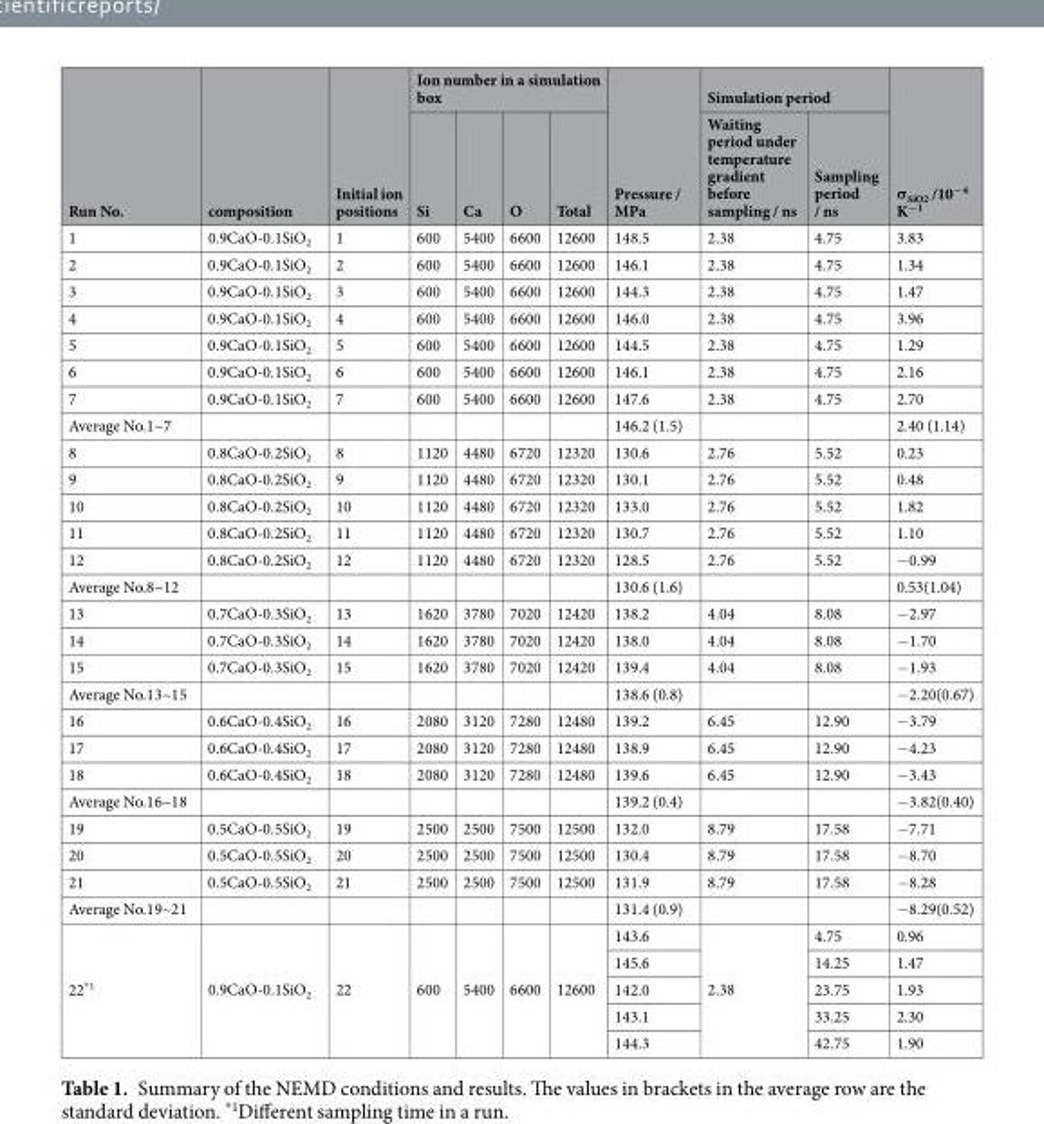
<table><thead><tr><td rowspan="2">Run No.</td><td rowspan="2">composition</td><td rowspan="2">Initial ion positions</td><td colspan="4">Ion number in a simulation box</td><td rowspan="2">Pressure / MPa</td><td colspan="2">Simulation period</td><td rowspan="2">σ<sub>SiO2</sub> /10<sup>−4</sup> K<sup>−1</sup></td></tr><tr><td>Si</td><td>Ca</td><td>O</td><td>Total</td><td>Waiting period under temperature gradient before sampling / ns</td><td>Sampling period / ns</td></tr></thead><tbody><tr><td>1</td><td>0.9CaO-0.1SiO<sub>2</sub></td><td>1</td><td>600</td><td>5400</td><td>6600</td><td>12600</td><td>148.5</td><td>2.38</td><td>4.75</td><td>3.83</td></tr><tr><td>2</td><td>0.9CaO-0.1SiO<sub>2</sub></td><td>2</td><td>600</td><td>5400</td><td>6600</td><td>12600</td><td>146.1</td><td>2.38</td><td>4.75</td><td>1.34</td></tr><tr><td>3</td><td>0.9CaO-0.1SiO<sub>2</sub></td><td>3</td><td>600</td><td>5400</td><td>6600</td><td>12600</td><td>144.3</td><td>2.38</td><td>4.75</td><td>1.47</td></tr><tr><td>4</td><td>0.9CaO-0.1SiO<sub>2</sub></td><td>4</td><td>600</td><td>5400</td><td>6600</td><td>12600</td><td>146.0</td><td>2.38</td><td>4.75</td><td>3.96</td></tr><tr><td>5</td><td>0.9CaO-0.1SiO<sub>2</sub></td><td>5</td><td>600</td><td>5400</td><td>6600</td><td>12600</td><td>144.5</td><td>2.38</td><td>4.75</td><td>1.29</td></tr><tr><td>6</td><td>0.9CaO-0.1SiO<sub>2</sub></td><td>6</td><td>600</td><td>5400</td><td>6600</td><td>12600</td><td>146.1</td><td>2.38</td><td>4.75</td><td>2.16</td></tr><tr><td>7</td><td>0.9CaO-0.1SiO<sub>2</sub></td><td>7</td><td>600</td><td>5400</td><td>6600</td><td>12600</td><td>147.6</td><td>2.38</td><td>4.75</td><td>2.70</td></tr><tr><td>Average No.1~7</td><td></td><td></td><td></td><td></td><td></td><td></td><td>146.2 (1.5)</td><td></td><td></td><td>2.40 (1.14)</td></tr><tr><td>8</td><td>0.8CaO-0.2SiO<sub>2</sub></td><td>8</td><td>1120</td><td>4480</td><td>6720</td><td>12320</td><td>130.6</td><td>2.76</td><td>5.52</td><td>0.23</td></tr><tr><td>9</td><td>0.8CaO-0.2SiO<sub>2</sub></td><td>9</td><td>1120</td><td>4480</td><td>6720</td><td>12320</td><td>130.1</td><td>2.76</td><td>5.52</td><td>0.48</td></tr><tr><td>10</td><td>0.8CaO-0.2SiO<sub>2</sub></td><td>10</td><td>1120</td><td>4480</td><td>6720</td><td>12320</td><td>133.0</td><td>2.76</td><td>5.52</td><td>1.82</td></tr><tr><td>11</td><td>0.8CaO-0.2SiO<sub>2</sub></td><td>11</td><td>1120</td><td>4480</td><td>6720</td><td>12320</td><td>130.7</td><td>2.76</td><td>5.52</td><td>1.10</td></tr><tr><td>12</td><td>0.8CaO-0.2SiO<sub>2</sub></td><td>12</td><td>1120</td><td>4480</td><td>6720</td><td>12320</td><td>128.5</td><td>2.76</td><td>5.52</td><td>−0.99</td></tr><tr><td>Average No.8~12</td><td></td><td></td><td></td><td></td><td></td><td></td><td>130.6 (1.6)</td><td></td><td></td><td>0.53(1.04)</td></tr><tr><td>13</td><td>0.7CaO-0.3SiO<sub>2</sub></td><td>13</td><td>1620</td><td>3780</td><td>7020</td><td>12420</td><td>138.2</td><td>4.04</td><td>8.08</td><td>−2.97</td></tr><tr><td>14</td><td>0.7CaO-0.3SiO<sub>2</sub></td><td>14</td><td>1620</td><td>3780</td><td>7020</td><td>12420</td><td>138.0</td><td>4.04</td><td>8.08</td><td>−1.70</td></tr><tr><td>15</td><td>0.7CaO-0.3SiO<sub>2</sub></td><td>15</td><td>1620</td><td>3780</td><td>7020</td><td>12420</td><td>139.4</td><td>4.04</td><td>8.08</td><td>−1.93</td></tr><tr><td>Average No.13~15</td><td></td><td></td><td></td><td></td><td></td><td></td><td>138.6 (0.8)</td><td></td><td></td><td>−2.20(0.67)</td></tr><tr><td>16</td><td>0.6CaO-0.4SiO<sub>2</sub></td><td>16</td><td>2080</td><td>3120</td><td>7280</td><td>12480</td><td>139.2</td><td>6.45</td><td>12.90</td><td>−3.79</td></tr><tr><td>17</td><td>0.6CaO-0.4SiO<sub>2</sub></td><td>17</td><td>2080</td><td>3120</td><td>7280</td><td>12480</td><td>138.9</td><td>6.45</td><td>12.90</td><td>−4.23</td></tr><tr><td>18</td><td>0.6CaO-0.4SiO<sub>2</sub></td><td>18</td><td>2080</td><td>3120</td><td>7280</td><td>12480</td><td>139.6</td><td>6.45</td><td>12.90</td><td>−3.43</td></tr><tr><td>Average No.16~18</td><td></td><td></td><td></td><td></td><td></td><td></td><td>139.2 (0.4)</td><td></td><td></td><td>−3.82(0.40)</td></tr><tr><td>19</td><td>0.5CaO-0.5SiO<sub>2</sub></td><td>19</td><td>2500</td><td>2500</td><td>7500</td><td>12500</td><td>132.0</td><td>8.79</td><td>17.58</td><td>−7.71</td></tr><tr><td>20</td><td>0.5CaO-0.5SiO<sub>2</sub></td><td>20</td><td>2500</td><td>2500</td><td>7500</td><td>12500</td><td>130.4</td><td>8.79</td><td>17.58</td><td>−8.70</td></tr><tr><td>21</td><td>0.5CaO-0.5SiO<sub>2</sub></td><td>21</td><td>2500</td><td>2500</td><td>7500</td><td>12500</td><td>131.9</td><td>8.79</td><td>17.58</td><td>−8.28</td></tr><tr><td>Average No.19~21</td><td></td><td></td><td></td><td></td><td></td><td></td><td>131.4 (0.9)</td><td></td><td></td><td>−8.29(0.52)</td></tr><tr><td rowspan="5">22<sup>*1</sup></td><td rowspan="5">0.9CaO-0.1SiO<sub>2</sub></td><td rowspan="5">22</td><td rowspan="5">600</td><td rowspan="5">5400</td><td rowspan="5">6600</td><td rowspan="5">12600</td><td>143.6</td><td rowspan="5">2.38</td><td>4.75</td><td>0.96</td></tr><tr><td>145.6</td><td>14.25</td><td>1.47</td></tr><tr><td>142.0</td><td>23.75</td><td>1.93</td></tr><tr><td>143.1</td><td>33.25</td><td>2.30</td></tr><tr><td>144.3</td><td>42.75</td><td>1.90</td></tr></tbody></table>